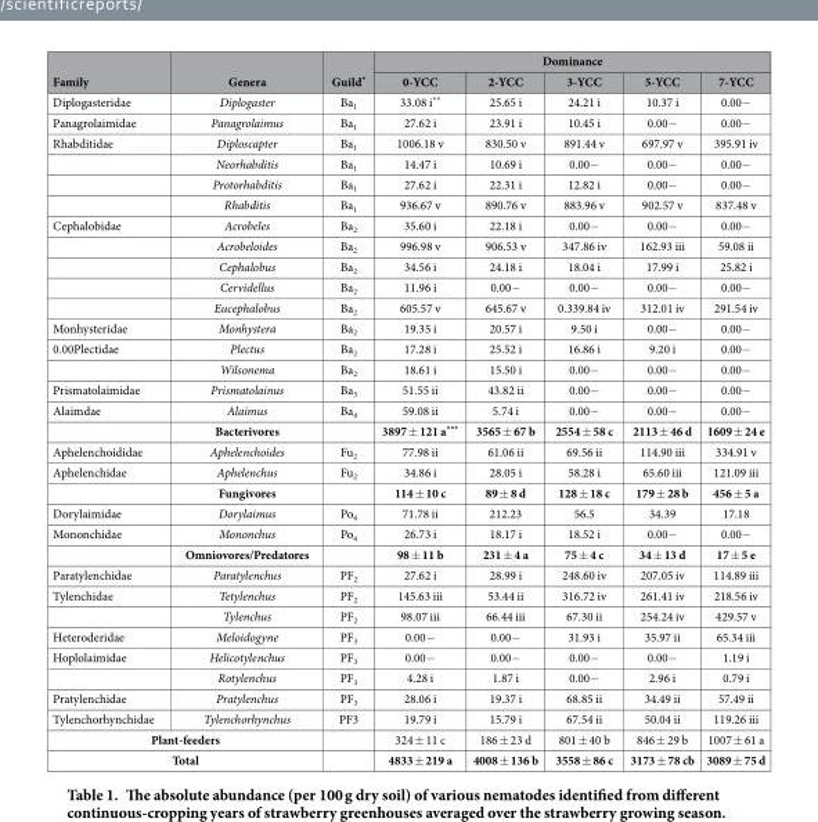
<table><thead><tr><td rowspan="2">Family</td><td rowspan="2">Genera</td><td rowspan="2">Guild*</td><td colspan="5">Dominance</td></tr><tr><td>0-YCC</td><td>2-YCC</td><td>3-YCC</td><td>5-YCC</td><td>7-YCC</td></tr></thead><tbody><tr><td>Diplogasteridae</td><td>Diplogaster</td><td>Ba<sub>1</sub></td><td>33.08 i**</td><td>25.65 i</td><td>24.21 i</td><td>10.37 i</td><td>0.00−</td></tr><tr><td>Panagrolaimidae</td><td>Panagrolaimus</td><td>Ba<sub>1</sub></td><td>27.62 i</td><td>23.91 i</td><td>10.45 i</td><td>0.00−</td><td>0.00−</td></tr><tr><td rowspan="4">Rhabditidae</td><td>Diploscapter</td><td>Ba<sub>1</sub></td><td>1006.18 v</td><td>830.50 v</td><td>891.44 v</td><td>697.97 v</td><td>395.91 iv</td></tr><tr><td>Neorhabditis</td><td>Ba<sub>1</sub></td><td>14.47 i</td><td>10.69 i</td><td>0.00−</td><td>0.00−</td><td>0.00−</td></tr><tr><td>Protorhabditis</td><td>Ba<sub>1</sub></td><td>27.62 i</td><td>22.31 i</td><td>12.82 i</td><td>0.00−</td><td>0.00−</td></tr><tr><td>Rhabditis</td><td>Ba<sub>1</sub></td><td>936.67 v</td><td>890.76 v</td><td>883.96 v</td><td>902.57 v</td><td>837.48 v</td></tr><tr><td rowspan="5">Cephalobidae</td><td>Acrobeles</td><td>Ba<sub>2</sub></td><td>35.60 i</td><td>22.18 i</td><td>0.00−</td><td>0.00−</td><td>0.00−</td></tr><tr><td>Acrobeloides</td><td>Ba<sub>2</sub></td><td>996.98 v</td><td>906.53 v</td><td>347.86 iv</td><td>162.93 iii</td><td>59.08 ii</td></tr><tr><td>Cephalobus</td><td>Ba<sub>2</sub></td><td>34.56 i</td><td>24.18 i</td><td>18.04 i</td><td>17.99 i</td><td>25.82 i</td></tr><tr><td>Cervidellus</td><td>Ba<sub>2</sub></td><td>11.96 i</td><td>0.00−</td><td>0.00−</td><td>0.00−</td><td>0.00−</td></tr><tr><td>Eucephalobus</td><td>Ba<sub>2</sub></td><td>605.57 v</td><td>645.67 v</td><td>0.339.84 iv</td><td>312.01 iv</td><td>291.54 iv</td></tr><tr><td>Monhysteridae</td><td>Monhystera</td><td>Ba<sub>2</sub></td><td>19.35 i</td><td>20.57 i</td><td>9.50 i</td><td>0.00−</td><td>0.00−</td></tr><tr><td rowspan="2">0.00Plectidae</td><td>Plectus</td><td>Ba<sub>2</sub></td><td>17.28 i</td><td>25.52 i</td><td>16.86 i</td><td>9.20 i</td><td>0.00−</td></tr><tr><td>Wilsonema</td><td>Ba<sub>2</sub></td><td>18.61 i</td><td>15.50 i</td><td>0.00−</td><td>0.00−</td><td>0.00−</td></tr><tr><td>Prismatolaimidae</td><td>Prismatolainus</td><td>Ba<sub>3</sub></td><td>51.55 ii</td><td>43.82 ii</td><td>0.00−</td><td>0.00−</td><td>0.00−</td></tr><tr><td rowspan="2">Alaimdae</td><td>Alaimus</td><td>Ba<sub>4</sub></td><td>59.08 ii</td><td>5.74 i</td><td>0.00−</td><td>0.00−</td><td>0.00−</td></tr><tr><td>Bacterivores</td><td></td><td>3897 ± 121 a***</td><td>3565 ± 67 b</td><td>2554 ± 58 c</td><td>2113 ± 46 d</td><td>1609 ± 24 e</td></tr><tr><td>Aphelenchoididae</td><td>Aphelenchoides</td><td>Fu<sub>2</sub></td><td>77.98 ii</td><td>61.06 ii</td><td>69.56 ii</td><td>114.90 iii</td><td>334.91 v</td></tr><tr><td rowspan="2">Aphelenchidae</td><td>Aphelenchus</td><td>Fu<sub>2</sub></td><td>34.86 i</td><td>28.05 i</td><td>58.28 i</td><td>65.60 iii</td><td>121.09 iii</td></tr><tr><td>Fungivores</td><td></td><td>114 ± 10 c</td><td>89 ± 8 d</td><td>128 ± 18 c</td><td>179 ± 28 b</td><td>456 ± 5 a</td></tr><tr><td>Dorylaimidae</td><td>Dorylaimus</td><td>Po<sub>4</sub></td><td>71.78 ii</td><td>212.23</td><td>56.5</td><td>34.39</td><td>17.18</td></tr><tr><td rowspan="2">Mononchidae</td><td>Mononchus</td><td>Po<sub>4</sub></td><td>26.73 i</td><td>18.17 i</td><td>18.52 i</td><td>0.00−</td><td>0.00−</td></tr><tr><td>Omniovores/Predatores</td><td></td><td>98 ± 11 b</td><td>231 ± 4 a</td><td>75 ± 4 c</td><td>34 ± 13 d</td><td>17 ± 5 e</td></tr><tr><td>Paratylenchidae</td><td>Paratylenchus</td><td>PF<sub>2</sub></td><td>27.62 i</td><td>28.99 i</td><td>248.60 iv</td><td>207.05 iv</td><td>114.89 iii</td></tr><tr><td rowspan="2">Tylenchidae</td><td>Tetylenchus</td><td>PF<sub>2</sub></td><td>145.63 iii</td><td>53.44 ii</td><td>316.72 iv</td><td>261.41 iv</td><td>218.56 iv</td></tr><tr><td>Tylenchus</td><td>PF<sub>2</sub></td><td>98.07 iii</td><td>66.44 iii</td><td>67.30 ii</td><td>254.24 iv</td><td>429.57 v</td></tr><tr><td>Heteroderidae</td><td>Meloidogyne</td><td>PF<sub>3</sub></td><td>0.00−</td><td>0.00−</td><td>31.93 i</td><td>35.97 ii</td><td>65.34 iii</td></tr><tr><td rowspan="2">Hoplolaimidae</td><td>Helicotylenchus</td><td>PF<sub>3</sub></td><td>0.00−</td><td>0.00−</td><td>0.00−</td><td>0.00−</td><td>1.19 i</td></tr><tr><td>Rotylenchus</td><td>PF<sub>3</sub></td><td>4.28 i</td><td>1.87 i</td><td>0.00−</td><td>2.96 i</td><td>0.79 i</td></tr><tr><td>Pratylenchidae</td><td>Pratylenchus</td><td>PF<sub>3</sub></td><td>28.06 i</td><td>19.37 i</td><td>68.85 ii</td><td>34.49 ii</td><td>57.49 ii</td></tr><tr><td>Tylenchorhynchidae</td><td>Tylenchorhynchus</td><td>PF3</td><td>19.79 i</td><td>15.79 i</td><td>67.54 ii</td><td>50.04 ii</td><td>119.26 iii</td></tr><tr><td colspan="2">Plant-feeders</td><td></td><td>324 ± 11 c</td><td>186 ± 23 d</td><td>801 ± 40 b</td><td>846 ± 29 b</td><td>1007 ± 61 a</td></tr><tr><td colspan="2">Total</td><td></td><td>4833 ± 219 a</td><td>4008 ± 136 b</td><td>3558 ± 86 c</td><td>3173 ± 78 cb</td><td>3089 ± 75 d</td></tr></tbody></table>